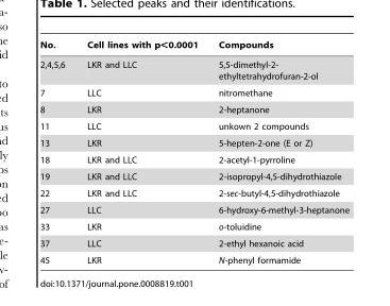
<table><thead><tr><td>No.</td><td>Cell lines with p&lt;0.0001</td><td>Compounds</td></tr></thead><tbody><tr><td>2,4,5,6</td><td>LKR and LLC</td><td>5,5-dimethyl-2- ethyltetrahydrofuran-2-ol</td></tr><tr><td>7</td><td>LLC</td><td>nitromethane</td></tr><tr><td>8</td><td>LKR</td><td>2-heptanone</td></tr><tr><td>11</td><td>LLC</td><td>unkown 2 compounds</td></tr><tr><td>13</td><td>LKR</td><td>5-hepten-2-one (E or Z)</td></tr><tr><td>18</td><td>LKR and LLC</td><td>2-acetyl-1-pyrroline</td></tr><tr><td>19</td><td>LKR and LLC</td><td>2-isopropyl-4,5-dihydrothiazole</td></tr><tr><td>22</td><td>LKR and LLC</td><td>2-sec-butyl-4,5-dihydrothiazole</td></tr><tr><td>27</td><td>LLC</td><td>6-hydroxy-6-methyl-3-heptanone</td></tr><tr><td>33</td><td>LKR</td><td>o-toluidine</td></tr><tr><td>37</td><td>LLC</td><td>2-ethyl hexanoic acid</td></tr><tr><td>45</td><td>LKR</td><td>N-phenyl formamide</td></tr></tbody></table>